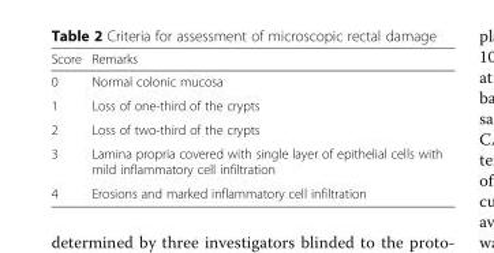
<table><thead><tr><td>Score</td><td>Remarks</td></tr></thead><tbody><tr><td>0</td><td>Normal colonic mucosa</td></tr><tr><td>1</td><td>Loss of one-third of the crypts</td></tr><tr><td>2</td><td>Loss of two-third of the crypts</td></tr><tr><td>3</td><td>Lamina propria covered with single layer of epithelial cells with mild inflammatory cell infiltration</td></tr><tr><td>4</td><td>Erosions and marked inflammatory cell infiltration</td></tr></tbody></table>